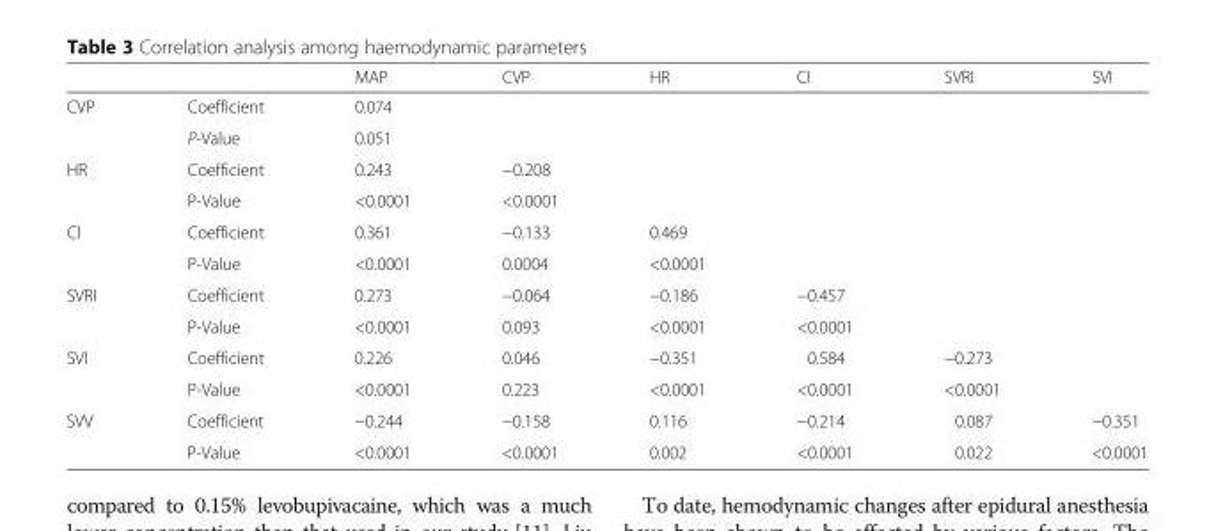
<table><thead><tr><td></td><td></td><td>MAP</td><td>CVP</td><td>HR</td><td>CI</td><td>SVRI</td><td>SVI</td></tr></thead><tbody><tr><td rowspan="2">CVP</td><td>Coefficient</td><td>0.074</td><td></td><td></td><td></td><td></td><td></td></tr><tr><td>P-Value</td><td>0.051</td><td></td><td></td><td></td><td></td><td></td></tr><tr><td rowspan="2">HR</td><td>Coefficient</td><td>0.243</td><td>−0.208</td><td></td><td></td><td></td><td></td></tr><tr><td>P-Value</td><td>&lt;0.0001</td><td>&lt;0.0001</td><td></td><td></td><td></td><td></td></tr><tr><td rowspan="2">CI</td><td>Coefficient</td><td>0.361</td><td>−0.133</td><td>0.469</td><td></td><td></td><td></td></tr><tr><td>P-Value</td><td>&lt;0.0001</td><td>0.0004</td><td>&lt;0.0001</td><td></td><td></td><td></td></tr><tr><td rowspan="2">SVRI</td><td>Coefficient</td><td>0.273</td><td>−0.064</td><td>−0.186</td><td>−0.457</td><td></td><td></td></tr><tr><td>P-Value</td><td>&lt;0.0001</td><td>0.093</td><td>&lt;0.0001</td><td>&lt;0.0001</td><td></td><td></td></tr><tr><td rowspan="2">SVI</td><td>Coefficient</td><td>0.226</td><td>0.046</td><td>−0.351</td><td>0.584</td><td>−0.273</td><td></td></tr><tr><td>P-Value</td><td>&lt;0.0001</td><td>0.223</td><td>&lt;0.0001</td><td>&lt;0.0001</td><td>&lt;0.0001</td><td></td></tr><tr><td rowspan="2">SVV</td><td>Coefficient</td><td>−0.244</td><td>−0.158</td><td>0.116</td><td>−0.214</td><td>0.087</td><td>−0.351</td></tr><tr><td>P-Value</td><td>&lt;0.0001</td><td>&lt;0.0001</td><td>0.002</td><td>&lt;0.0001</td><td>0.022</td><td>&lt;0.0001</td></tr></tbody></table>